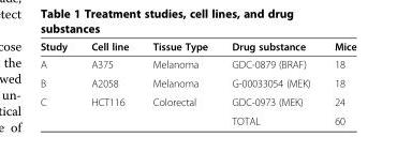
<table><thead><tr><td>Study</td><td>Cell line</td><td>Tissue Type</td><td>Drug substance</td><td>Mice</td></tr></thead><tbody><tr><td>A</td><td>A375</td><td>Melanoma</td><td>GDC-0879 (BRAF)</td><td>18</td></tr><tr><td>B</td><td>A2058</td><td>Melanoma</td><td>G-00033054 (MEK)</td><td>18</td></tr><tr><td rowspan="2">C</td><td>HCT116</td><td>Colorectal</td><td>GDC-0973 (MEK)</td><td>24</td></tr><tr><td></td><td></td><td>TOTAL</td><td>60</td></tr></tbody></table>